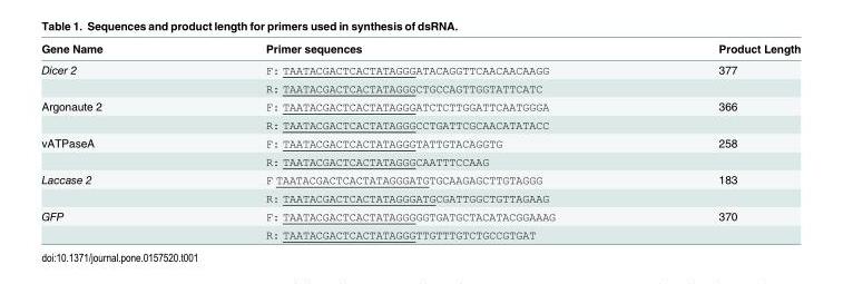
<table><thead><tr><td>Gene Name</td><td>Primer sequences</td><td>Product Length</td></tr></thead><tbody><tr><td rowspan="2">Dicer 2</td><td>F: TAATACGACTCACTATAGGGATACAGGTTCAACAACAAGG</td><td>377</td></tr><tr><td>R: TAATACGACTCACTATAGGGCTGCCAGTTGGTATTCATC</td><td></td></tr><tr><td rowspan="2">Argonaute 2</td><td>F: TAATACGACTCACTATAGGGATCTCTTGGATTCAATGGGA</td><td>366</td></tr><tr><td>R: TAATACGACTCACTATAGGGCCTGATTCGCAACATATACC</td><td></td></tr><tr><td rowspan="2">vATPaseA</td><td>F: TAATACGACTCACTATAGGGTATTGTACAGGTG</td><td>258</td></tr><tr><td>R: TAATACGACTCACTATAGGGCAATTTCCAAG</td><td></td></tr><tr><td rowspan="2">Laccase 2</td><td>F TAATACGACTCACTATAGGGATGTGCAAGAGCTTGTAGGG</td><td>183</td></tr><tr><td>R: TAATACGACTCACTATAGGGATGCGATTGGCTGTTAGAAG</td><td></td></tr><tr><td rowspan="2">GFP</td><td>F: TAATACGACTCACTATAGGGGGTGATGCTACATACGGAAAG</td><td>370</td></tr><tr><td>R: TAATACGACTCACTATAGGGTTGTTTGTCTGCCGTGAT</td><td></td></tr></tbody></table>